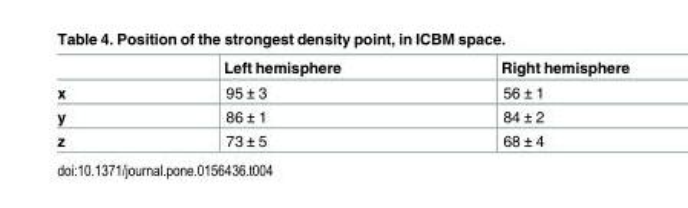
<table><thead><tr><td></td><td>Left hemisphere</td><td>Right hemisphere</td></tr></thead><tbody><tr><td>x</td><td>95 ± 3</td><td>56 ± 1</td></tr><tr><td>y</td><td>86 ± 1</td><td>84 ± 2</td></tr><tr><td>z</td><td>73 ± 5</td><td>68 ± 4</td></tr></tbody></table>